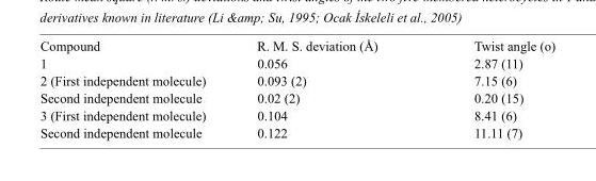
<table><tbody><tr><td>Compound</td><td>R. M. S. deviation (Å)</td><td>Twist angle (o)</td></tr><tr><td>1</td><td>0.056</td><td>2.87 (11)</td></tr><tr><td>2 (First independent molecule)</td><td>0.093 (2)</td><td>7.15 (6)</td></tr><tr><td>Second independent molecule</td><td>0.02 (2)</td><td>0.20 (15)</td></tr><tr><td>3 (First independent molecule)</td><td>0.104</td><td>8.41 (6)</td></tr><tr><td>Second independent molecule</td><td>0.122</td><td>11.11 (7)</td></tr></tbody></table>